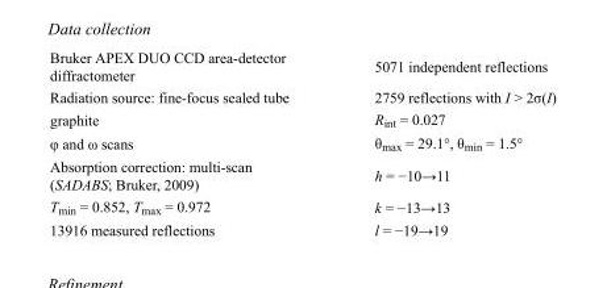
<table><tbody><tr><td>Bruker APEX DUO CCD area-detector diffractometer</td><td>5071 independent reflections</td></tr><tr><td>Radiation source: fine-focus sealed tube</td><td>2759 reflections with I &gt; 2σ(I)</td></tr><tr><td>graphite</td><td>R<sub>int</sub> = 0.027</td></tr><tr><td>φ and ω scans</td><td>θ<sub>max</sub> = 29.1°, θ<sub>min</sub> = 1.5°</td></tr><tr><td>Absorption correction: multi-scan (SADABS; Bruker, 2009)</td><td>h = −10→11</td></tr><tr><td>T<sub>min</sub> = 0.852, T<sub>max</sub> = 0.972</td><td>k = −13→13</td></tr><tr><td>13916 measured reflections</td><td>l = −19→19</td></tr></tbody></table>